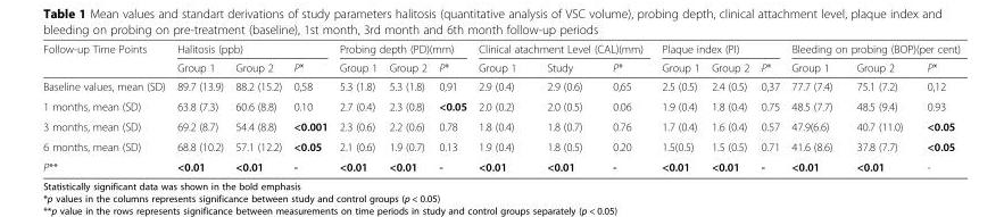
<table><thead><tr><td rowspan="2">Follow-up Time Points</td><td colspan="3">Halitosis (ppb)</td><td colspan="3">Probing depth (PD)(mm)</td><td colspan="3">Clinical atachment Level (CAL)(mm)</td><td colspan="3">Plaque index (PI)</td><td colspan="3">Bleeding on probing (BOP)(per cent)</td></tr><tr><td>Group 1</td><td>Group 2</td><td>P*</td><td>Group 1</td><td>Group 2</td><td>P*</td><td>Group 1</td><td>Study</td><td>P*</td><td>Group 1</td><td>Group 2</td><td>P*</td><td>Group 1</td><td>Group 2</td><td>P*</td></tr></thead><tbody><tr><td>Baseline values, mean (SD)</td><td>89.7 (13.9)</td><td>88.2 (15.2)</td><td>0,58</td><td>5.3 (1.8)</td><td>5.3 (1.8)</td><td>0,91</td><td>2.9 (0.4)</td><td>2.9 (0.6)</td><td>0,65</td><td>2.5 (0.5)</td><td>2.4 (0.5)</td><td>0,37</td><td>77.7 (7.4)</td><td>75.1 (7.2)</td><td>0,12</td></tr><tr><td>1 months, mean (SD)</td><td>63.8 (7.3)</td><td>60.6 (8.8)</td><td>0.10</td><td>2.7 (0.4)</td><td>2.3 (0.8)</td><td>&lt;0.05</td><td>2.0 (0.2)</td><td>2.0 (0.5)</td><td>0.06</td><td>1.9 (0.4)</td><td>1.8 (0.4)</td><td>0.75</td><td>48.5 (7.7)</td><td>48.5 (9.4)</td><td>0.93</td></tr><tr><td>3 months, mean (SD)</td><td>69.2 (8.7)</td><td>54.4 (8.8)</td><td>&lt;0.001</td><td>2.3 (0.6)</td><td>2.2 (0.6)</td><td>0.78</td><td>1.8 (0.4)</td><td>1.8 (0.7)</td><td>0.76</td><td>1.7 (0.4)</td><td>1.6 (0.4)</td><td>0.57</td><td>47.9(6.6)</td><td>40.7 (11.0)</td><td>&lt;0.05</td></tr><tr><td>6 months, mean (SD)</td><td>68.8 (10.2)</td><td>57.1 (12.2)</td><td>&lt;0.05</td><td>2.1 (0.6)</td><td>1.9 (0.7)</td><td>0.13</td><td>1.9 (0.4)</td><td>1.8 (0.5)</td><td>0.20</td><td>1.5(0.5)</td><td>1.5 (0.5)</td><td>0.71</td><td>41.6 (8.6)</td><td>37.8 (7.7)</td><td>&lt;0.05</td></tr><tr><td>P**</td><td>&lt;0.01</td><td>&lt;0.01</td><td>-</td><td>&lt;0.01</td><td>&lt;0.01</td><td>-</td><td>&lt;0.01</td><td>&lt;0.01</td><td>-</td><td>&lt;0.01</td><td>&lt;0.01</td><td>-</td><td>&lt;0.01</td><td>&lt;0.01</td><td>-</td></tr></tbody></table>